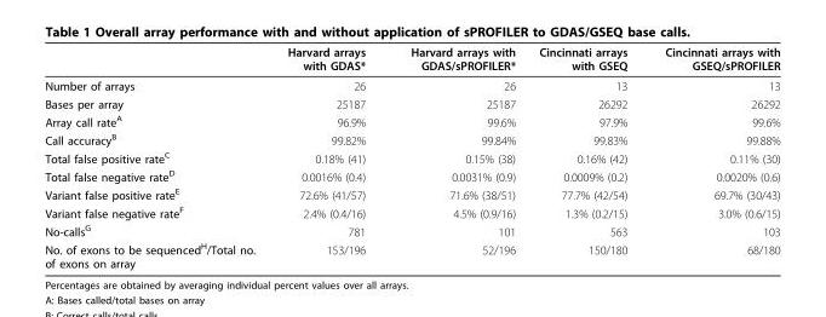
<table><thead><tr><td></td><td>Harvard arrays with GDAS*</td><td>Harvard arrays with GDAS/sPROFILER*</td><td>Cincinnati arrays with GSEQ</td><td>Cincinnati arrays with GSEQ/sPROFILER</td></tr></thead><tbody><tr><td>Number of arrays</td><td>26</td><td>26</td><td>13</td><td>13</td></tr><tr><td>Bases per array</td><td>25187</td><td>25187</td><td>26292</td><td>26292</td></tr><tr><td>Array call rate<sup>A</sup></td><td>96.9%</td><td>99.6%</td><td>97.9%</td><td>99.6%</td></tr><tr><td>Call accuracy<sup>B</sup></td><td>99.82%</td><td>99.84%</td><td>99.83%</td><td>99.88%</td></tr><tr><td>Total false positive rate<sup>C</sup></td><td>0.18% (41)</td><td>0.15% (38)</td><td>0.16% (42)</td><td>0.11% (30)</td></tr><tr><td>Total false negative rate<sup>D</sup></td><td>0.0016% (0.4)</td><td>0.0031% (0.9)</td><td>0.0009% (0.2)</td><td>0.0020% (0.6)</td></tr><tr><td>Variant false positive rate<sup>E</sup></td><td>72.6% (41/57)</td><td>71.6% (38/51)</td><td>77.7% (42/54)</td><td>69.7% (30/43)</td></tr><tr><td>Variant false negative rate<sup>F</sup></td><td>2.4% (0.4/16)</td><td>4.5% (0.9/16)</td><td>1.3% (0.2/15)</td><td>3.0% (0.6/15)</td></tr><tr><td>No-calls<sup>G</sup></td><td>781</td><td>101</td><td>563</td><td>103</td></tr><tr><td>No. of exons to be sequencedH/Total no. of exons on array</td><td>153/196</td><td>52/196</td><td>150/180</td><td>68/180</td></tr></tbody></table>